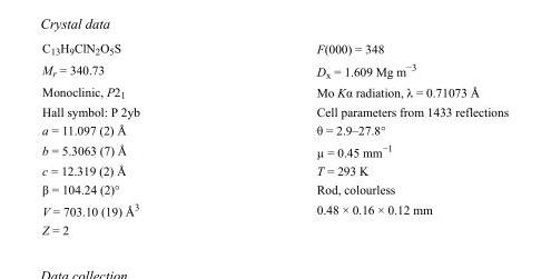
<table><tbody><tr><td>C<sub>13</sub>H<sub>9</sub>ClN<sub>2</sub>O<sub>5</sub>S</td><td>F(000) = 348</td></tr><tr><td>M<sub>r</sub> = 340.73</td><td>D<sub>x</sub> = 1.609 Mg m<sup>−3</sup></td></tr><tr><td>Monoclinic, P2<sub>1</sub></td><td>Mo Kα radiation, λ = 0.71073 Å</td></tr><tr><td>Hall symbol: P 2yb</td><td>Cell parameters from 1433 reflections</td></tr><tr><td>a = 11.097 (2) Å</td><td>θ = 2.9–27.8°</td></tr><tr><td>b = 5.3063 (7) Å</td><td>µ = 0.45 mm<sup>−1</sup></td></tr><tr><td>c = 12.319 (2) Å</td><td>T = 293 K</td></tr><tr><td>β = 104.24 (2)°</td><td>Rod, colourless</td></tr><tr><td>V = 703.10 (19) Å<sup>3</sup></td><td>0.48 × 0.16 × 0.12 mm</td></tr><tr><td>Z = 2</td><td></td></tr></tbody></table>